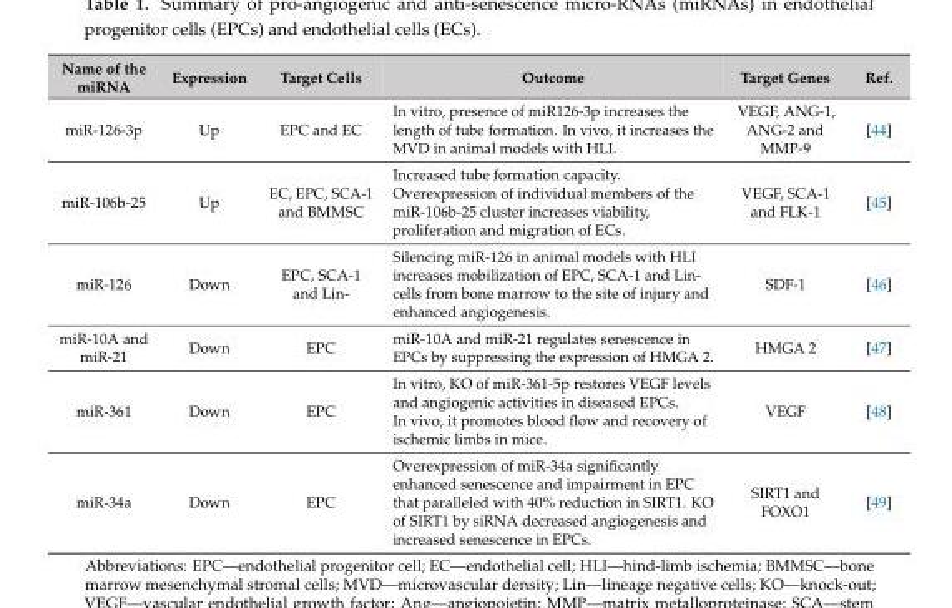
<table><thead><tr><td>Name of the miRNA</td><td>Expression</td><td>Target Cells</td><td>Outcome</td><td>Target Genes</td><td>Ref.</td></tr></thead><tbody><tr><td>miR-126-3p</td><td>Up</td><td>EPC and EC</td><td>In vitro, presence of miR126-3p increases the length of tube formation. In vivo, it increases the MVD in animal models with HLI.</td><td>VEGF, ANG-1, ANG-2 and MMP-9</td><td>[44]</td></tr><tr><td>miR-106b-25</td><td>Up</td><td>EC, EPC, SCA-1 and BMMSC</td><td>Increased tube formation capacity. Overexpression of individual members of the miR-106b-25 cluster increases viability, proliferation and migration of ECs.</td><td>VEGF, SCA-1 and FLK-1</td><td>[45]</td></tr><tr><td>miR-126</td><td>Down</td><td>EPC, SCA-1 and Lin-</td><td>Silencing miR-126 in animal models with HLI increases mobilization of EPC, SCA-1 and Lin- cells from bone marrow to the site of injury and enhanced angiogenesis.</td><td>SDF-1</td><td>[46]</td></tr><tr><td>miR-10A and miR-21</td><td>Down</td><td>EPC</td><td>miR-10A and miR-21 regulates senescence in EPCs by suppressing the expression of HMGA 2.</td><td>HMGA 2</td><td>[47]</td></tr><tr><td>miR-361</td><td>Down</td><td>EPC</td><td>In vitro, KO of miR-361-5p restores VEGF levels and angiogenic activities in diseased EPCs. In vivo, it promotes blood flow and recovery of ischemic limbs in mice.</td><td>VEGF</td><td>[48]</td></tr><tr><td>miR-34a</td><td>Down</td><td>EPC</td><td>Overexpression of miR-34a significantly enhanced senescence and impairment in EPC that paralleled with 40% reduction in SIRT1. KO of SIRT1 by siRNA decreased angiogenesis and increased senescence in EPCs.</td><td>SIRT1 and FOXO1</td><td>[49]</td></tr></tbody></table>